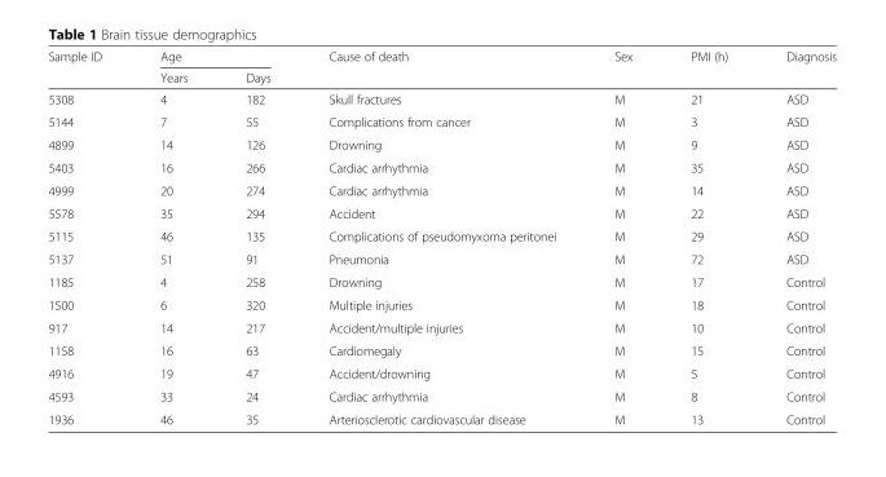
<table><thead><tr><td rowspan="2">Sample ID</td><td colspan="2">Age</td><td rowspan="2">Cause of death</td><td rowspan="2">Sex</td><td rowspan="2">PMI (h)</td><td rowspan="2">Diagnosis</td></tr><tr><td>Years</td><td>Days</td></tr></thead><tbody><tr><td>5308</td><td>4</td><td>182</td><td>Skull fractures</td><td>M</td><td>21</td><td>ASD</td></tr><tr><td>5144</td><td>7</td><td>55</td><td>Complications from cancer</td><td>M</td><td>3</td><td>ASD</td></tr><tr><td>4899</td><td>14</td><td>126</td><td>Drowning</td><td>M</td><td>9</td><td>ASD</td></tr><tr><td>5403</td><td>16</td><td>266</td><td>Cardiac arrhythmia</td><td>M</td><td>35</td><td>ASD</td></tr><tr><td>4999</td><td>20</td><td>274</td><td>Cardiac arrhythmia</td><td>M</td><td>14</td><td>ASD</td></tr><tr><td>5578</td><td>35</td><td>294</td><td>Accident</td><td>M</td><td>22</td><td>ASD</td></tr><tr><td>5115</td><td>46</td><td>135</td><td>Complications of pseudomyxoma peritonei</td><td>M</td><td>29</td><td>ASD</td></tr><tr><td>5137</td><td>51</td><td>91</td><td>Pneumonia</td><td>M</td><td>72</td><td>ASD</td></tr><tr><td>1185</td><td>4</td><td>258</td><td>Drowning</td><td>M</td><td>17</td><td>Control</td></tr><tr><td>1500</td><td>6</td><td>320</td><td>Multiple injuries</td><td>M</td><td>18</td><td>Control</td></tr><tr><td>917</td><td>14</td><td>217</td><td>Accident/multiple injuries</td><td>M</td><td>10</td><td>Control</td></tr><tr><td>1158</td><td>16</td><td>63</td><td>Cardiomegaly</td><td>M</td><td>15</td><td>Control</td></tr><tr><td>4916</td><td>19</td><td>47</td><td>Accident/drowning</td><td>M</td><td>5</td><td>Control</td></tr><tr><td>4593</td><td>33</td><td>24</td><td>Cardiac arrhythmia</td><td>M</td><td>8</td><td>Control</td></tr><tr><td>1936</td><td>46</td><td>35</td><td>Arteriosclerotic cardiovascular disease</td><td>M</td><td>13</td><td>Control</td></tr></tbody></table>